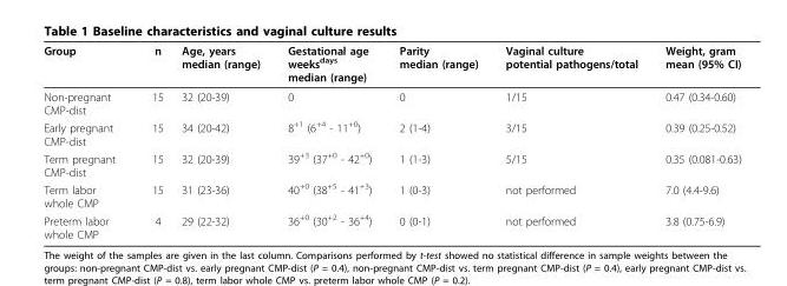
<table><thead><tr><td>Group</td><td>n</td><td>Age, years median (range)</td><td>Gestational age weeks<sup>days</sup> median (range)</td><td>Parity median (range)</td><td>Vaginal culture potential pathogens/total</td><td>Weight, gram mean (95% CI)</td></tr></thead><tbody><tr><td>Non-pregnant CMP-dist</td><td>15</td><td>32 (20-39)</td><td>0</td><td>0</td><td>1/15</td><td>0.47 (0.34-0.60)</td></tr><tr><td>Early pregnant CMP-dist</td><td>15</td><td>34 (20-42)</td><td>8<sup>+1</sup> (6<sup>+4</sup> - 11<sup>+0</sup>)</td><td>2 (1-4)</td><td>3/15</td><td>0.39 (0.25-0.52)</td></tr><tr><td>Term pregnant CMP-dist</td><td>15</td><td>32 (20-39)</td><td>39<sup>+3</sup> (37<sup>+0</sup> - 42<sup>+0</sup>)</td><td>1 (1-3)</td><td>5/15</td><td>0.35 (0.081-0.63)</td></tr><tr><td>Term labor whole CMP</td><td>15</td><td>31 (23-36)</td><td>40<sup>+0</sup> (38<sup>+5</sup> - 41<sup>+3</sup>)</td><td>1 (0-3)</td><td>not performed</td><td>7.0 (4.4-9.6)</td></tr><tr><td>Preterm labor whole CMP</td><td>4</td><td>29 (22-32)</td><td>36<sup>+0</sup> (30<sup>+2</sup> - 36<sup>+4</sup>)</td><td>0 (0-1)</td><td>not performed</td><td>3.8 (0.75-6.9)</td></tr></tbody></table>